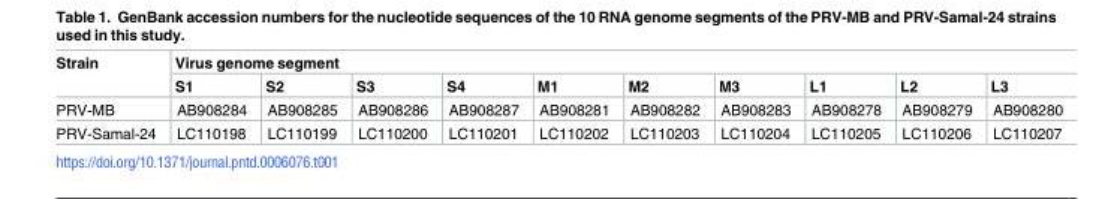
<table><thead><tr><td rowspan="2">Strain</td><td colspan="10">Virus genome segment</td></tr><tr><td>S1</td><td>S2</td><td>S3</td><td>S4</td><td>M1</td><td>M2</td><td>M3</td><td>L1</td><td>L2</td><td>L3</td></tr></thead><tbody><tr><td>PRV-MB</td><td>AB908284</td><td>AB908285</td><td>AB908286</td><td>AB908287</td><td>AB908281</td><td>AB908282</td><td>AB908283</td><td>AB908278</td><td>AB908279</td><td>AB908280</td></tr><tr><td>PRV-Samal-24</td><td>LC110198</td><td>LC110199</td><td>LC110200</td><td>LC110201</td><td>LC110202</td><td>LC110203</td><td>LC110204</td><td>LC110205</td><td>LC110206</td><td>LC110207</td></tr></tbody></table>